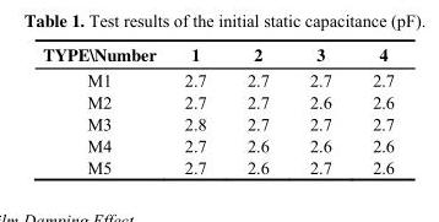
<table><thead><tr><td>TYPE\Number</td><td>1</td><td>2</td><td>3</td><td>4</td></tr></thead><tbody><tr><td>M1</td><td>2.7</td><td>2.7</td><td>2.7</td><td>2.7</td></tr><tr><td>M2</td><td>2.7</td><td>2.7</td><td>2.6</td><td>2.6</td></tr><tr><td>M3</td><td>2.8</td><td>2.7</td><td>2.7</td><td>2.7</td></tr><tr><td>M4</td><td>2.7</td><td>2.6</td><td>2.6</td><td>2.6</td></tr><tr><td>M5</td><td>2.7</td><td>2.6</td><td>2.7</td><td>2.6</td></tr></tbody></table>